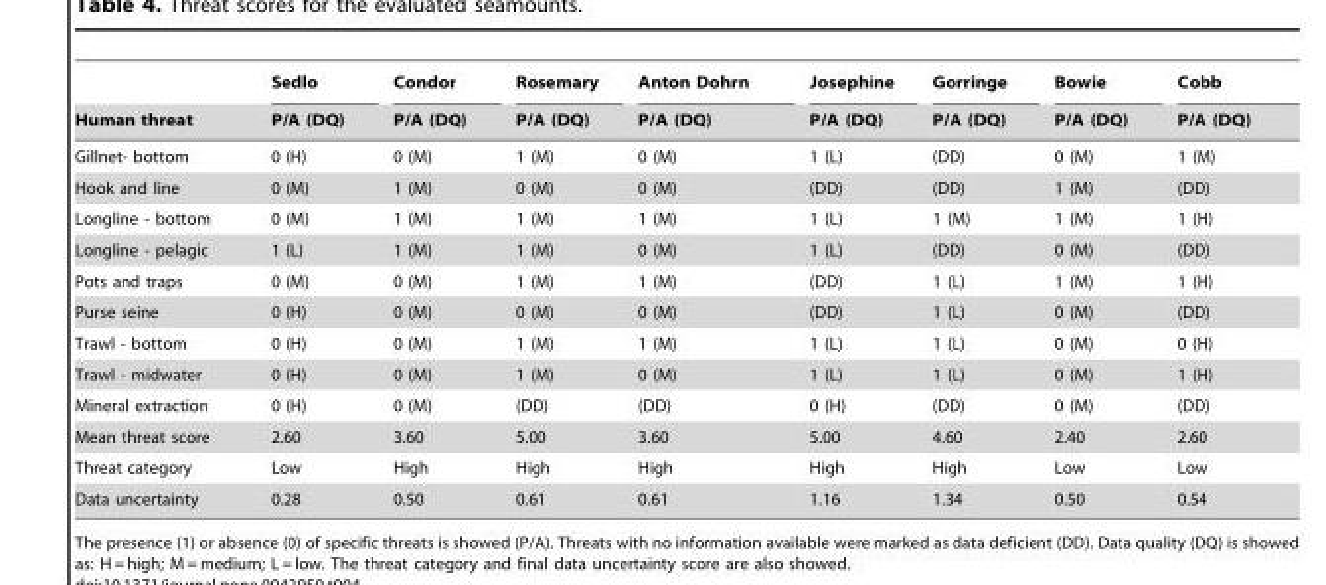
<table><thead><tr><td rowspan="2">Human threat</td><td rowspan="2">Sedlo P/A (DQ)</td><td rowspan="2">Condor P/A (DQ)</td><td rowspan="2">Rosemary P/A (DQ)</td><td rowspan="2">Anton Dohrn P/A (DQ)</td><td rowspan="2">Josephine P/A (DQ)</td><td rowspan="2">Gorringe P/A (DQ)</td><td rowspan="2">Bowie P/A (DQ)</td><td rowspan="2">Cobb P/A (DQ)</td></tr><tr></tr></thead><tbody><tr><td>Gillnet- bottom</td><td>0 (H)</td><td>0 (M)</td><td>1 (M)</td><td>0 (M)</td><td>1 (L)</td><td>(DD)</td><td>0 (M)</td><td>1 (M)</td></tr><tr><td>Hook and line</td><td>0 (M)</td><td>1 (M)</td><td>0 (M)</td><td>0 (M)</td><td>(DD)</td><td>(DD)</td><td>1 (M)</td><td>(DD)</td></tr><tr><td>Longline - bottom</td><td>0 (M)</td><td>1 (M)</td><td>1 (M)</td><td>1 (M)</td><td>1 (L)</td><td>1 (M)</td><td>1 (M)</td><td>1 (H)</td></tr><tr><td>Longline - pelagic</td><td>1 (L)</td><td>1 (M)</td><td>1 (M)</td><td>0 (M)</td><td>1 (L)</td><td>(DD)</td><td>0 (M)</td><td>(DD)</td></tr><tr><td>Pots and traps</td><td>0 (M)</td><td>0 (M)</td><td>1 (M)</td><td>1 (M)</td><td>(DD)</td><td>1 (L)</td><td>1 (M)</td><td>1 (H)</td></tr><tr><td>Purse seine</td><td>0 (H)</td><td>0 (M)</td><td>0 (M)</td><td>0 (M)</td><td>(DD)</td><td>1 (L)</td><td>0 (M)</td><td>(DD)</td></tr><tr><td>Trawl - bottom</td><td>0 (H)</td><td>0 (M)</td><td>1 (M)</td><td>1 (M)</td><td>1 (L)</td><td>1 (L)</td><td>0 (M)</td><td>0 (H)</td></tr><tr><td>Trawl - midwater</td><td>0 (H)</td><td>0 (M)</td><td>1 (M)</td><td>0 (M)</td><td>1 (L)</td><td>1 (L)</td><td>0 (M)</td><td>1 (H)</td></tr><tr><td>Mineral extraction</td><td>0 (H)</td><td>0 (M)</td><td>(DD)</td><td>(DD)</td><td>0 (H)</td><td>(DD)</td><td>0 (M)</td><td>(DD)</td></tr><tr><td>Mean threat score</td><td>2.60</td><td>3.60</td><td>5.00</td><td>3.60</td><td>5.00</td><td>4.60</td><td>2.40</td><td>2.60</td></tr><tr><td>Threat category</td><td>Low</td><td>High</td><td>High</td><td>High</td><td>High</td><td>High</td><td>Low</td><td>Low</td></tr><tr><td>Data uncertainty</td><td>0.28</td><td>0.50</td><td>0.61</td><td>0.61</td><td>1.16</td><td>1.34</td><td>0.50</td><td>0.54</td></tr></tbody></table>